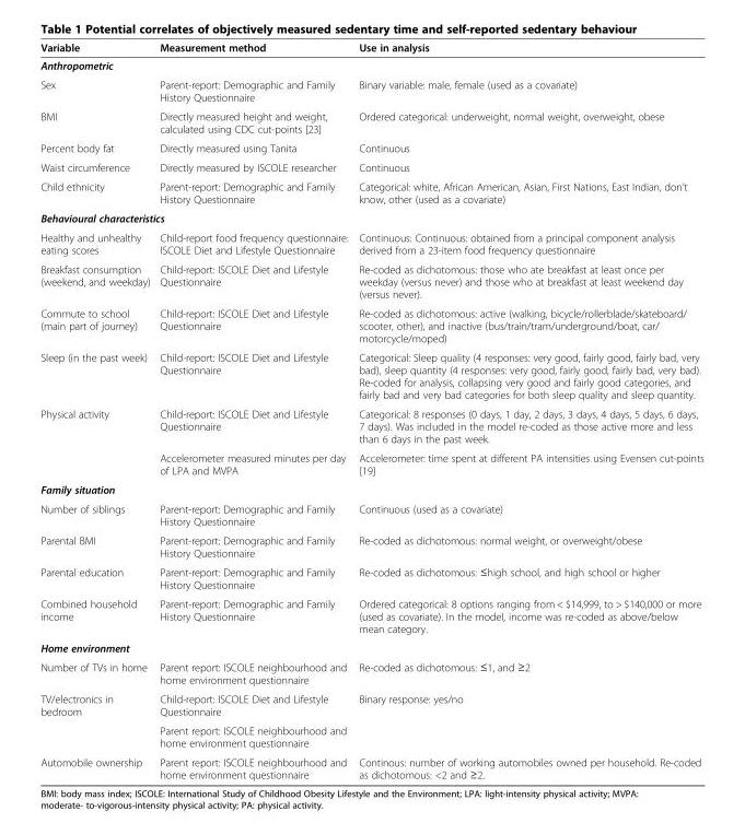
<table><thead><tr><td>Variable</td><td>Measurement method</td><td>Use in analysis</td></tr></thead><tbody><tr><td colspan="3">Anthropometric</td></tr><tr><td>Sex</td><td>Parent-report: Demographic and Family History Questionnaire</td><td>Binary variable: male, female (used as a covariate)</td></tr><tr><td>BMI</td><td>Directly measured height and weight, calculated using CDC cut-points [23]</td><td>Ordered categorical: underweight, normal weight, overweight, obese</td></tr><tr><td>Percent body fat</td><td>Directly measured using Tanita</td><td>Continuous</td></tr><tr><td>Waist circumference</td><td>Directly measured by ISCOLE researcher</td><td>Continuous</td></tr><tr><td>Child ethnicity</td><td>Parent-report: Demographic and Family History Questionnaire</td><td>Categorical: white, African American, Asian, First Nations, East Indian, don’t know, other (used as a covariate)</td></tr><tr><td colspan="3">Behavioural characteristics</td></tr><tr><td>Healthy and unhealthy eating scores</td><td>Child-report food frequency questionnaire: ISCOLE Diet and Lifestyle Questionnaire</td><td>Continuous: Continuous: obtained from a principal component analysis derived from a 23-item food frequency questionnaire</td></tr><tr><td>Breakfast consumption (weekend, and weekday)</td><td>Child-report: ISCOLE Diet and Lifestyle Questionnaire</td><td>Re-coded as dichotomous: those who ate breakfast at least once per weekday (versus never) and those who at breakfast at least weekend day (versus never).</td></tr><tr><td>Commute to school (main part of journey)</td><td>Child-report: ISCOLE Diet and Lifestyle Questionnaire</td><td>Re-coded as dichotomous: active (walking, bicycle/rollerblade/skateboard/ scooter, other), and inactive (bus/train/tram/underground/boat, car/ motorcycle/moped)</td></tr><tr><td>Sleep (in the past week)</td><td>Child-report: ISCOLE Diet and Lifestyle Questionnaire</td><td>Categorical: Sleep quality (4 responses: very good, fairly good, fairly bad, very bad), sleep quantity (4 responses: very good, fairly good, fairly bad, very bad). Re-coded for analysis, collapsing very good and fairly good categories, and fairly bad and very bad categories for both sleep quality and sleep quantity.</td></tr><tr><td rowspan="2">Physical activity</td><td>Child-report: ISCOLE Diet and Lifestyle Questionnaire</td><td>Categorical: 8 responses (0 days, 1 day, 2 days, 3 days, 4 days, 5 days, 6 days, 7 days). Was included in the model re-coded as those active more and less than 6 days in the past week.</td></tr><tr><td>Accelerometer measured minutes per day of LPA and MVPA</td><td>Accelerometer: time spent at different PA intensities using Evensen cut-points [19]</td></tr><tr><td colspan="3">Family situation</td></tr><tr><td>Number of siblings</td><td>Parent-report: Demographic and Family History Questionnaire</td><td>Continuous (used as a covariate)</td></tr><tr><td>Parental BMI</td><td>Parent-report: Demographic and Family History Questionnaire</td><td>Re-coded as dichotomous: normal weight, or overweight/obese</td></tr><tr><td>Parental education</td><td>Parent-report: Demographic and Family History Questionnaire</td><td>Re-coded as dichotomous: ≤high school, and high school or higher</td></tr><tr><td>Combined household income</td><td>Parent-report: Demographic and Family History Questionnaire</td><td>Ordered categorical: 8 options ranging from &lt; $14,999, to &gt; $140,000 or more (used as covariate). In the model, income was re-coded as above/below mean category.</td></tr><tr><td colspan="3">Home environment</td></tr><tr><td>Number of TVs in home</td><td>Parent report: ISCOLE neighbourhood and home environment questionnaire</td><td>Re-coded as dichotomous: ≤1, and ≥2</td></tr><tr><td rowspan="2">TV/electronics in bedroom</td><td>Child-report: ISCOLE Diet and Lifestyle Questionnaire</td><td rowspan="2">Binary response: yes/no</td></tr><tr><td>Parent report: ISCOLE neighbourhood and home environment questionnaire</td></tr><tr><td>Automobile ownership</td><td>Parent report: ISCOLE neighbourhood and home environment questionnaire</td><td>Continous: number of working automobiles owned per household. Re-coded as dichotomous: &lt;2 and ≥2.</td></tr></tbody></table>